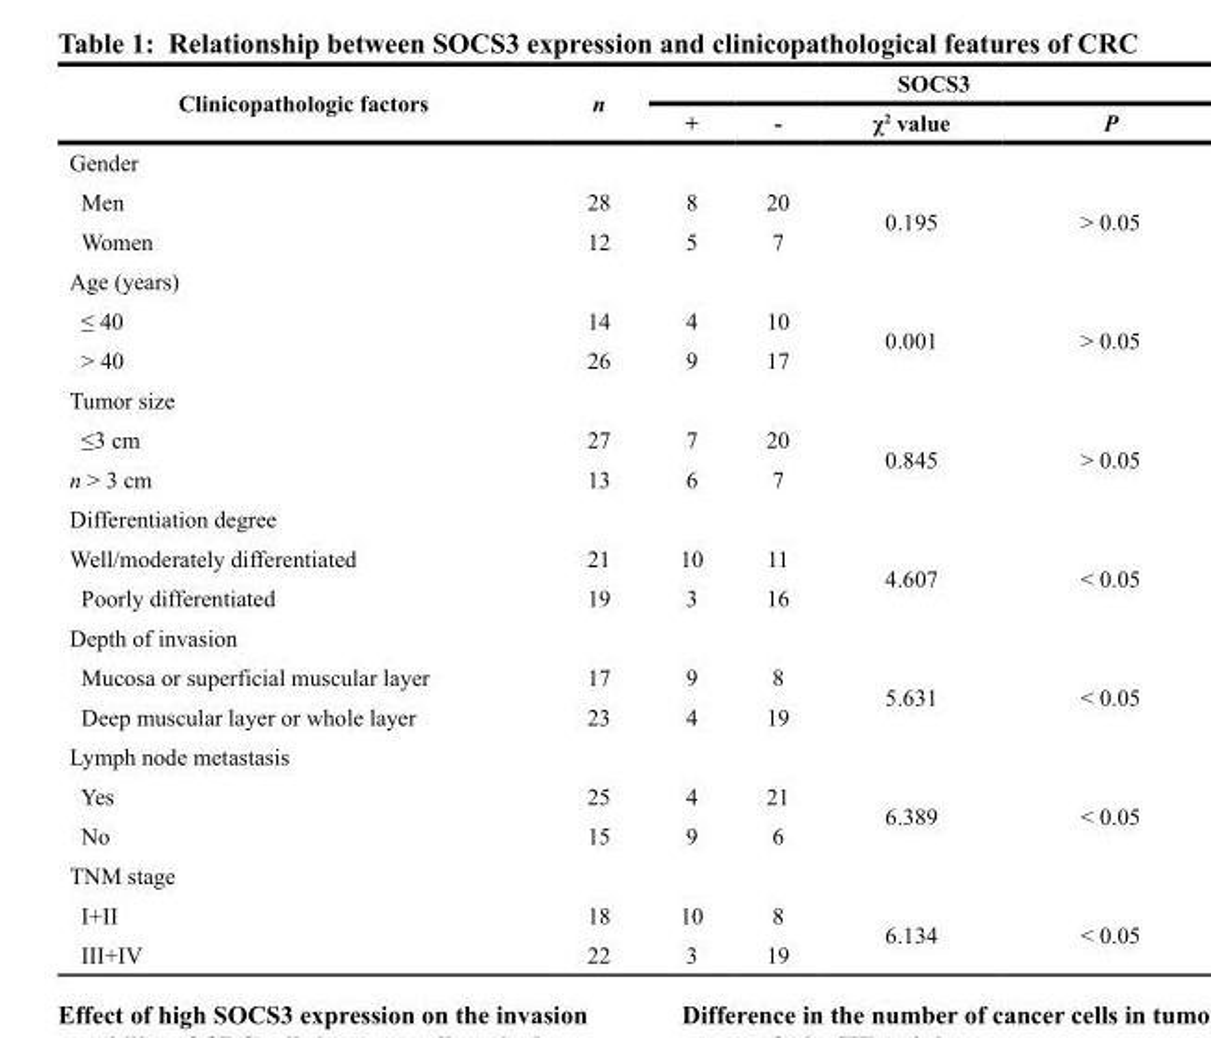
<table><thead><tr><td rowspan="2">Clinicopathologic factors</td><td rowspan="2">n</td><td colspan="4">SOCS3</td></tr><tr><td>+</td><td>-</td><td>χ<sup>2</sup> value</td><td>P</td></tr></thead><tbody><tr><td colspan="6">Gender</td></tr><tr><td>Men</td><td>28</td><td>8</td><td>20</td><td rowspan="2">0.195</td><td rowspan="2">&gt; 0.05</td></tr><tr><td>Women</td><td>12</td><td>5</td><td>7</td></tr><tr><td colspan="6">Age (years)</td></tr><tr><td>≤ 40</td><td>14</td><td>4</td><td>10</td><td rowspan="2">0.001</td><td rowspan="2">&gt; 0.05</td></tr><tr><td>&gt; 40</td><td>26</td><td>9</td><td>17</td></tr><tr><td colspan="6">Tumor size</td></tr><tr><td>≤3 cm</td><td>27</td><td>7</td><td>20</td><td rowspan="2">0.845</td><td rowspan="2">&gt; 0.05</td></tr><tr><td>n &gt; 3 cm</td><td>13</td><td>6</td><td>7</td></tr><tr><td colspan="6">Differentiation degree</td></tr><tr><td>Well/moderately differentiated</td><td>21</td><td>10</td><td>11</td><td rowspan="2">4.607</td><td rowspan="2">&lt; 0.05</td></tr><tr><td>Poorly differentiated</td><td>19</td><td>3</td><td>16</td></tr><tr><td colspan="6">Depth of invasion</td></tr><tr><td>Mucosa or superficial muscular layer</td><td>17</td><td>9</td><td>8</td><td rowspan="2">5.631</td><td rowspan="2">&lt; 0.05</td></tr><tr><td>Deep muscular layer or whole layer</td><td>23</td><td>4</td><td>19</td></tr><tr><td colspan="6">Lymph node metastasis</td></tr><tr><td>Yes</td><td>25</td><td>4</td><td>21</td><td rowspan="2">6.389</td><td rowspan="2">&lt; 0.05</td></tr><tr><td>No</td><td>15</td><td>9</td><td>6</td></tr><tr><td colspan="6">TNM stage</td></tr><tr><td>I+II</td><td>18</td><td>10</td><td>8</td><td rowspan="2">6.134</td><td rowspan="2">&lt; 0.05</td></tr><tr><td>III+IV</td><td>22</td><td>3</td><td>19</td></tr></tbody></table>